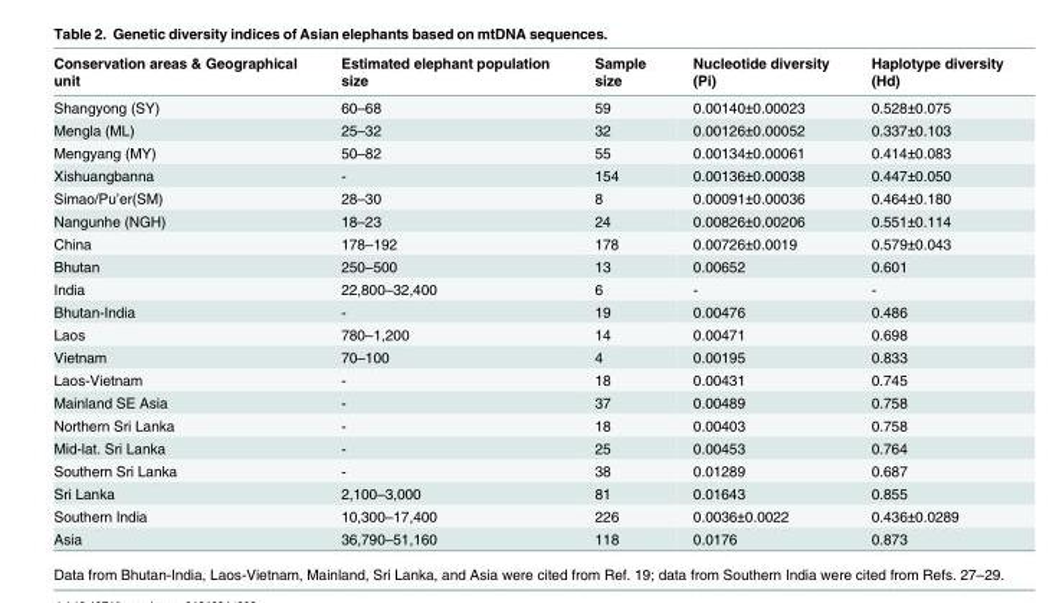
<table><thead><tr><td>Conservation areas &amp; Geographical unit</td><td>Estimated elephant population size</td><td>Sample size</td><td>Nucleotide diversity (Pi)</td><td>Haplotype diversity (Hd)</td></tr></thead><tbody><tr><td>Shangyong (SY)</td><td>60–68</td><td>59</td><td>0.00140±0.00023</td><td>0.528±0.075</td></tr><tr><td>Mengla (ML)</td><td>25–32</td><td>32</td><td>0.00126±0.00052</td><td>0.337±0.103</td></tr><tr><td>Mengyang (MY)</td><td>50–82</td><td>55</td><td>0.00134±0.00061</td><td>0.414±0.083</td></tr><tr><td>Xishuangbanna</td><td>-</td><td>154</td><td>0.00136±0.00038</td><td>0.447±0.050</td></tr><tr><td>Simao/Pu’er(SM)</td><td>28–30</td><td>8</td><td>0.00091±0.00036</td><td>0.464±0.180</td></tr><tr><td>Nangunhe (NGH)</td><td>18–23</td><td>24</td><td>0.00826±0.00206</td><td>0.551±0.114</td></tr><tr><td>China</td><td>178–192</td><td>178</td><td>0.00726±0.0019</td><td>0.579±0.043</td></tr><tr><td>Bhutan</td><td>250–500</td><td>13</td><td>0.00652</td><td>0.601</td></tr><tr><td>India</td><td>22,800–32,400</td><td>6</td><td>-</td><td>-</td></tr><tr><td>Bhutan-India</td><td>-</td><td>19</td><td>0.00476</td><td>0.486</td></tr><tr><td>Laos</td><td>780–1,200</td><td>14</td><td>0.00471</td><td>0.698</td></tr><tr><td>Vietnam</td><td>70–100</td><td>4</td><td>0.00195</td><td>0.833</td></tr><tr><td>Laos-Vietnam</td><td>-</td><td>18</td><td>0.00431</td><td>0.745</td></tr><tr><td>Mainland SE Asia</td><td>-</td><td>37</td><td>0.00489</td><td>0.758</td></tr><tr><td>Northern Sri Lanka</td><td>-</td><td>18</td><td>0.00403</td><td>0.758</td></tr><tr><td>Mid-lat. Sri Lanka</td><td>-</td><td>25</td><td>0.00453</td><td>0.764</td></tr><tr><td>Southern Sri Lanka</td><td>-</td><td>38</td><td>0.01289</td><td>0.687</td></tr><tr><td>Sri Lanka</td><td>2,100–3,000</td><td>81</td><td>0.01643</td><td>0.855</td></tr><tr><td>Southern India</td><td>10,300–17,400</td><td>226</td><td>0.0036±0.0022</td><td>0.436±0.0289</td></tr><tr><td>Asia</td><td>36,790–51,160</td><td>118</td><td>0.0176</td><td>0.873</td></tr></tbody></table>